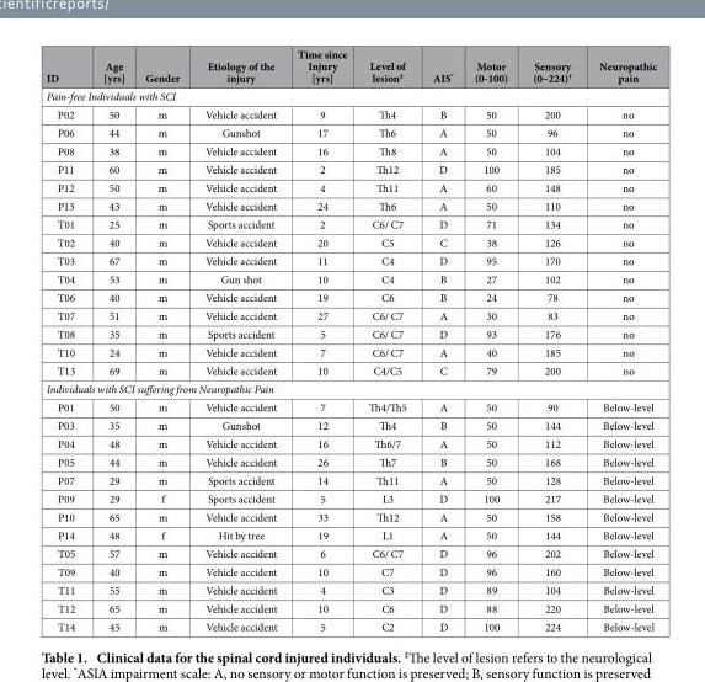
<table><thead><tr><td>ID</td><td>Age [yrs]</td><td>Gender</td><td>Etiology of the injury</td><td>Time since Injury [yrs]</td><td>Level of lesion‡</td><td>AIS*</td><td>Motor (0-100)</td><td>Sensory (0–224)†</td><td>Neuropathic pain</td></tr></thead><tbody><tr><td colspan="10">Pain-free Individuals with SCI</td></tr><tr><td>P02</td><td>50</td><td>m</td><td>Vehicle accident</td><td>9</td><td>Th4</td><td>B</td><td>50</td><td>200</td><td>no</td></tr><tr><td>P06</td><td>44</td><td>m</td><td>Gunshot</td><td>17</td><td>Th6</td><td>A</td><td>50</td><td>96</td><td>no</td></tr><tr><td>P08</td><td>38</td><td>m</td><td>Vehicle accident</td><td>16</td><td>Th8</td><td>A</td><td>50</td><td>104</td><td>no</td></tr><tr><td>P11</td><td>60</td><td>m</td><td>Vehicle accident</td><td>2</td><td>Th12</td><td>D</td><td>100</td><td>185</td><td>no</td></tr><tr><td>P12</td><td>50</td><td>m</td><td>Vehicle accident</td><td>4</td><td>Th11</td><td>A</td><td>60</td><td>148</td><td>no</td></tr><tr><td>P13</td><td>43</td><td>m</td><td>Vehicle accident</td><td>24</td><td>Th6</td><td>A</td><td>50</td><td>110</td><td>no</td></tr><tr><td>T01</td><td>25</td><td>m</td><td>Sports accident</td><td>2</td><td>C6/ C7</td><td>D</td><td>71</td><td>134</td><td>no</td></tr><tr><td>T02</td><td>40</td><td>m</td><td>Vehicle accident</td><td>20</td><td>C5</td><td>C</td><td>38</td><td>126</td><td>no</td></tr><tr><td>T03</td><td>67</td><td>m</td><td>Vehicle accident</td><td>11</td><td>C4</td><td>D</td><td>95</td><td>170</td><td>no</td></tr><tr><td>T04</td><td>53</td><td>m</td><td>Gun shot</td><td>10</td><td>C4</td><td>B</td><td>27</td><td>102</td><td>no</td></tr><tr><td>T06</td><td>40</td><td>m</td><td>Vehicle accident</td><td>19</td><td>C6</td><td>B</td><td>24</td><td>78</td><td>no</td></tr><tr><td>T07</td><td>51</td><td>m</td><td>Vehicle accident</td><td>27</td><td>C6/ C7</td><td>A</td><td>30</td><td>83</td><td>no</td></tr><tr><td>T08</td><td>35</td><td>m</td><td>Sports accident</td><td>5</td><td>C6/ C7</td><td>D</td><td>93</td><td>176</td><td>no</td></tr><tr><td>T10</td><td>24</td><td>m</td><td>Vehicle accident</td><td>7</td><td>C6/ C7</td><td>A</td><td>40</td><td>185</td><td>no</td></tr><tr><td>T13</td><td>69</td><td>m</td><td>Vehicle accident</td><td>10</td><td>C4/C5</td><td>C</td><td>79</td><td>200</td><td>no</td></tr><tr><td colspan="10">Individuals with SCI suffering from Neuropathic Pain</td></tr><tr><td>P01</td><td>50</td><td>m</td><td>Vehicle accident</td><td>7</td><td>Th4/Th5</td><td>A</td><td>50</td><td>90</td><td>Below-level</td></tr><tr><td>P03</td><td>35</td><td>m</td><td>Gunshot</td><td>12</td><td>Th4</td><td>B</td><td>50</td><td>144</td><td>Below-level</td></tr><tr><td>P04</td><td>48</td><td>m</td><td>Vehicle accident</td><td>16</td><td>Th6/7</td><td>A</td><td>50</td><td>112</td><td>Below-level</td></tr><tr><td>P05</td><td>44</td><td>m</td><td>Vehicle accident</td><td>26</td><td>Th7</td><td>B</td><td>50</td><td>168</td><td>Below-level</td></tr><tr><td>P07</td><td>29</td><td>m</td><td>Sports accident</td><td>14</td><td>Th11</td><td>A</td><td>50</td><td>128</td><td>Below-level</td></tr><tr><td>P09</td><td>29</td><td>f</td><td>Sports accident</td><td>5</td><td>L3</td><td>D</td><td>100</td><td>217</td><td>Below-level</td></tr><tr><td>P10</td><td>65</td><td>m</td><td>Vehicle accident</td><td>33</td><td>Th12</td><td>A</td><td>50</td><td>158</td><td>Below-level</td></tr><tr><td>P14</td><td>48</td><td>f</td><td>Hit by tree</td><td>19</td><td>L1</td><td>A</td><td>50</td><td>144</td><td>Below-level</td></tr><tr><td>T05</td><td>57</td><td>m</td><td>Vehicle accident</td><td>6</td><td>C6/ C7</td><td>D</td><td>96</td><td>202</td><td>Below-level</td></tr><tr><td>T09</td><td>40</td><td>m</td><td>Vehicle accident</td><td>10</td><td>C7</td><td>D</td><td>96</td><td>160</td><td>Below-level</td></tr><tr><td>T11</td><td>55</td><td>m</td><td>Vehicle accident</td><td>4</td><td>C3</td><td>D</td><td>89</td><td>104</td><td>Below-level</td></tr><tr><td>T12</td><td>65</td><td>m</td><td>Vehicle accident</td><td>10</td><td>C6</td><td>D</td><td>88</td><td>220</td><td>Below-level</td></tr><tr><td>T14</td><td>45</td><td>m</td><td>Vehicle accident</td><td>5</td><td>C2</td><td>D</td><td>100</td><td>224</td><td>Below-level</td></tr></tbody></table>